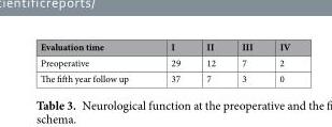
<table><thead><tr><td>Evaluation time</td><td>I</td><td>II</td><td>III</td><td>IV</td></tr></thead><tbody><tr><td>Preoperative</td><td>29</td><td>12</td><td>7</td><td>2</td></tr><tr><td>The fifth year follow up</td><td>37</td><td>7</td><td>3</td><td>0</td></tr></tbody></table>